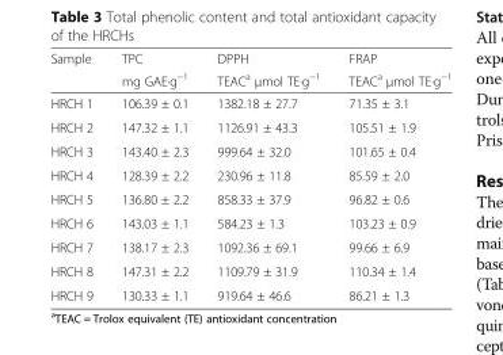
<table><thead><tr><td rowspan="2">Sample</td><td rowspan="2">TPC mg GAE·g<sup>−1</sup></td><td rowspan="2">DPPH TEAC<sup>a</sup> μmol TE·g<sup>−1</sup></td><td rowspan="2">FRAP TEAC<sup>a</sup> μmol TE·g<sup>−1</sup></td></tr><tr></tr></thead><tbody><tr><td>HRCH 1</td><td>106.39 ± 0.1</td><td>1382.18 ± 27.7</td><td>71.35 ± 3.1</td></tr><tr><td>HRCH 2</td><td>147.32 ± 1.1</td><td>1126.91 ± 43.3</td><td>105.51 ± 1.9</td></tr><tr><td>HRCH 3</td><td>143.40 ± 2.3</td><td>999.64 ± 32.0</td><td>101.65 ± 0.4</td></tr><tr><td>HRCH 4</td><td>128.39 ± 2.2</td><td>230.96 ± 11.8</td><td>85.59 ± 2.0</td></tr><tr><td>HRCH 5</td><td>136.80 ± 2.2</td><td>858.33 ± 37.9</td><td>96.82 ± 0.6</td></tr><tr><td>HRCH 6</td><td>143.03 ± 1.1</td><td>584.23 ± 1.3</td><td>103.23 ± 0.9</td></tr><tr><td>HRCH 7</td><td>138.17 ± 2.3</td><td>1092.36 ± 69.1</td><td>99.66 ± 6.9</td></tr><tr><td>HRCH 8</td><td>147.31 ± 2.2</td><td>1109.79 ± 31.9</td><td>110.34 ± 1.4</td></tr><tr><td>HRCH 9</td><td>130.33 ± 1.1</td><td>919.64 ± 46.6</td><td>86.21 ± 1.3</td></tr></tbody></table>